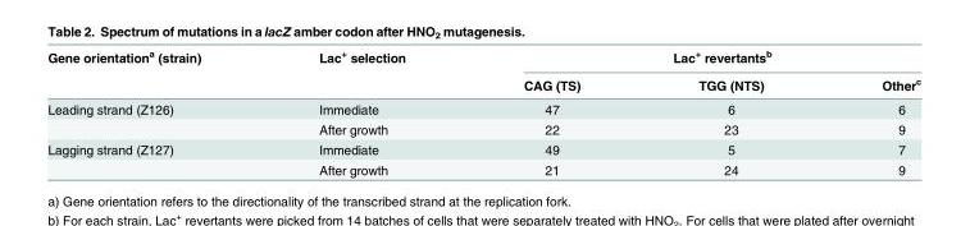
<table><thead><tr><td rowspan="2">Gene orientation<sup>a</sup> (strain)</td><td rowspan="2">Lac<sup>+</sup> selection</td><td colspan="3">Lac<sup>+</sup> revertants<sup>b</sup></td></tr><tr><td>CAG (TS)</td><td>TGG (NTS)</td><td>Other<sup>c</sup></td></tr></thead><tbody><tr><td rowspan="2">Leading strand (Z126)</td><td>Immediate</td><td>47</td><td>6</td><td>6</td></tr><tr><td>After growth</td><td>22</td><td>23</td><td>9</td></tr><tr><td rowspan="2">Lagging strand (Z127)</td><td>Immediate</td><td>49</td><td>5</td><td>7</td></tr><tr><td>After growth</td><td>21</td><td>24</td><td>9</td></tr></tbody></table>